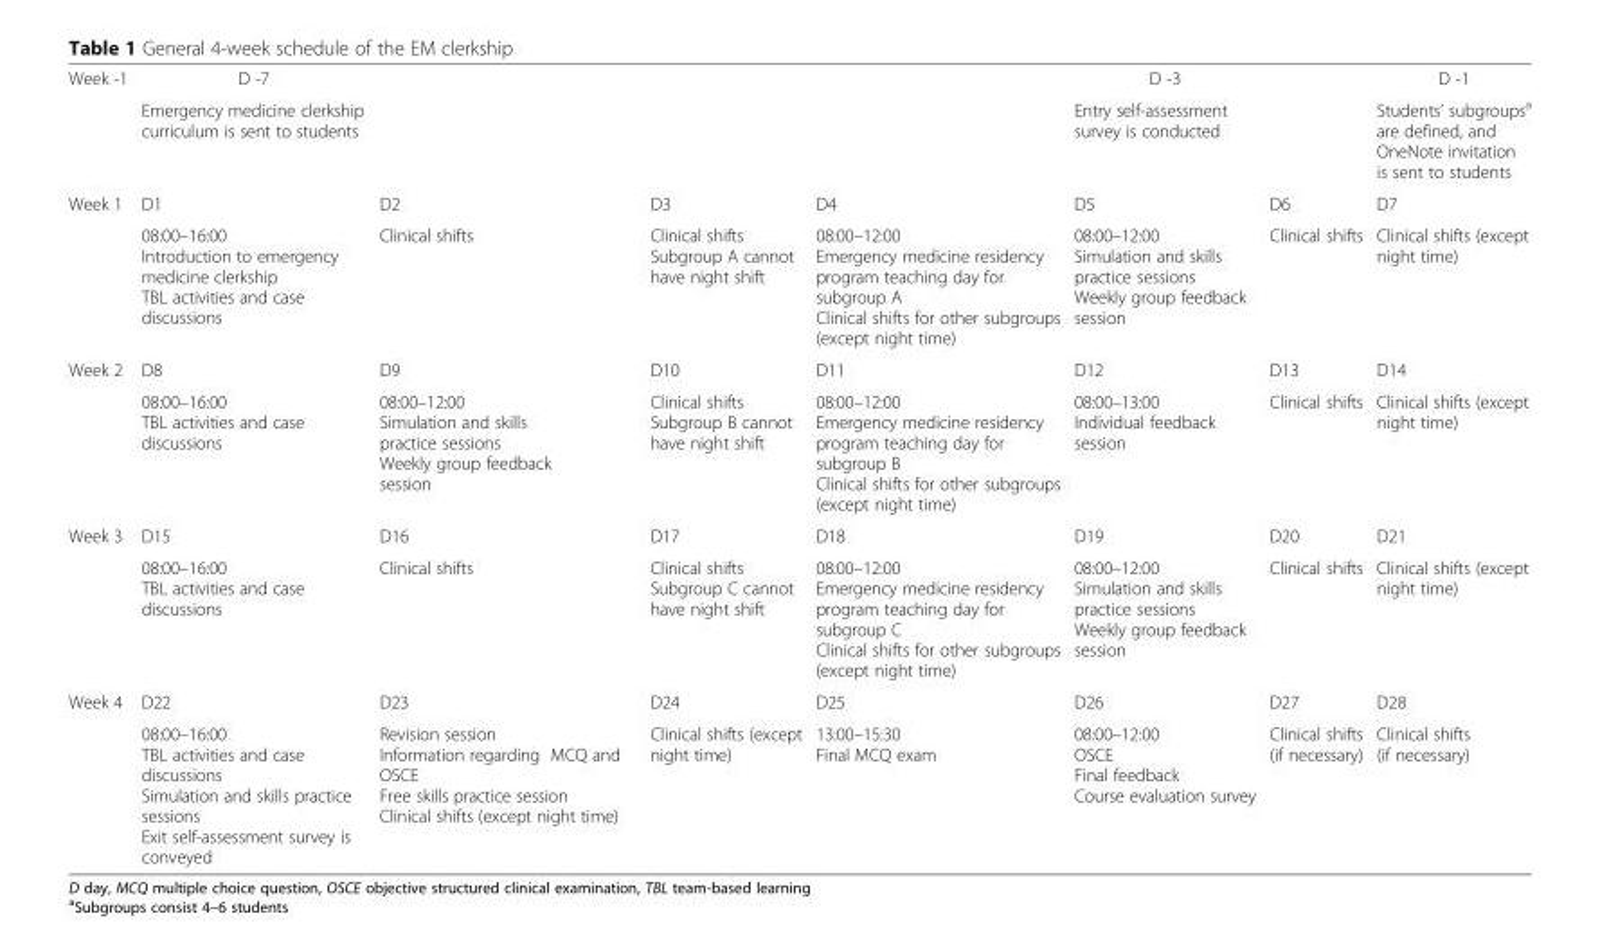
<table><tbody><tr><td rowspan="2">Week -1</td><td>D -7</td><td></td><td></td><td></td><td>D -3</td><td></td><td>D -1</td></tr><tr><td>Emergency medicine clerkship curriculum is sent to students</td><td></td><td></td><td></td><td>Entry self-assessment survey is conducted</td><td></td><td>Students’ subgroups<sup>a</sup> are defined, and OneNote invitation is sent to students</td></tr><tr><td rowspan="2">Week 1</td><td>D1</td><td>D2</td><td>D3</td><td>D4</td><td>D5</td><td>D6</td><td>D7</td></tr><tr><td>08:00–16:00 Introduction to emergency medicine clerkship TBL activities and case discussions</td><td>Clinical shifts</td><td>Clinical shifts Subgroup A cannot have night shift</td><td>08:00–12:00 Emergency medicine residency program teaching day for subgroup A Clinical shifts for other subgroups (except night time)</td><td>08:00–12:00 Simulation and skills practice sessions Weekly group feedback session</td><td>Clinical shifts</td><td>Clinical shifts (except night time)</td></tr><tr><td rowspan="2">Week 2</td><td>D8</td><td>D9</td><td>D10</td><td>D11</td><td>D12</td><td>D13</td><td>D14</td></tr><tr><td>08:00–16:00 TBL activities and case discussions</td><td>08:00–12:00 Simulation and skills practice sessions Weekly group feedback session</td><td>Clinical shifts Subgroup B cannot have night shift</td><td>08:00–12:00 Emergency medicine residency program teaching day for subgroup B Clinical shifts for other subgroups (except night time)</td><td>08:00–13:00 Individual feedback session</td><td>Clinical shifts</td><td>Clinical shifts (except night time)</td></tr><tr><td rowspan="2">Week 3</td><td>D15</td><td>D16</td><td>D17</td><td>D18</td><td>D19</td><td>D20</td><td>D21</td></tr><tr><td>08:00–16:00 TBL activities and case discussions</td><td>Clinical shifts</td><td>Clinical shifts Subgroup C cannot have night shift</td><td>08:00–12:00 Emergency medicine residency program teaching day for subgroup C Clinical shifts for other subgroups (except night time)</td><td>08:00–12:00 Simulation and skills practice sessions Weekly group feedback session</td><td>Clinical shifts</td><td>Clinical shifts (except night time)</td></tr><tr><td rowspan="2">Week 4</td><td>D22</td><td>D23</td><td>D24</td><td>D25</td><td>D26</td><td>D27</td><td>D28</td></tr><tr><td>08:00–16:00 TBL activities and case discussions Simulation and skills practice sessions Exit self-assessment survey is conveyed</td><td>Revision session Information regarding MCQ and OSCE Free skills practice session Clinical shifts (except night time)</td><td>Clinical shifts (except night time)</td><td>13:00–15:30 Final MCQ exam</td><td>08:00–12:00 OSCE Final feedback Course evaluation survey</td><td>Clinical shifts (if necessary)</td><td>Clinical shifts (if necessary)</td></tr></tbody></table>